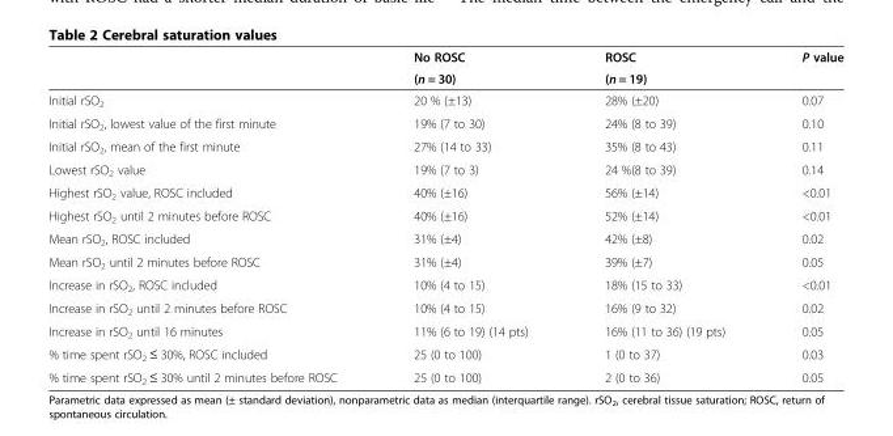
<table><thead><tr><td rowspan="2"></td><td rowspan="2">No ROSC (n = 30)</td><td rowspan="2">ROSC (n = 19)</td><td rowspan="2">P value</td></tr><tr></tr></thead><tbody><tr><td>Initial rSO<sub>2</sub></td><td>20 % (±13)</td><td>28% (±20)</td><td>0.07</td></tr><tr><td>Initial rSO<sub>2</sub>, lowest value of the first minute</td><td>19% (7 to 30)</td><td>24% (8 to 39)</td><td>0.10</td></tr><tr><td>Initial rSO<sub>2</sub>, mean of the first minute</td><td>27% (14 to 33)</td><td>35% (8 to 43)</td><td>0.11</td></tr><tr><td>Lowest rSO<sub>2</sub> value</td><td>19% (7 to 3)</td><td>24 %(8 to 39)</td><td>0.14</td></tr><tr><td>Highest rSO<sub>2</sub> value, ROSC included</td><td>40% (±16)</td><td>56% (±14)</td><td>&lt;0.01</td></tr><tr><td>Highest rSO<sub>2</sub> until 2 minutes before ROSC</td><td>40% (±16)</td><td>52% (±14)</td><td>&lt;0.01</td></tr><tr><td>Mean rSO<sub>2</sub>, ROSC included</td><td>31% (±4)</td><td>42% (±8)</td><td>0.02</td></tr><tr><td>Mean rSO<sub>2</sub> until 2 minutes before ROSC</td><td>31% (±4)</td><td>39% (±7)</td><td>0.05</td></tr><tr><td>Increase in rSO<sub>2</sub>, ROSC included</td><td>10% (4 to 15)</td><td>18% (15 to 33)</td><td>&lt;0.01</td></tr><tr><td>Increase in rSO<sub>2</sub> until 2 minutes before ROSC</td><td>10% (4 to 15)</td><td>16% (9 to 32)</td><td>0.02</td></tr><tr><td>Increase in rSO<sub>2</sub> until 16 minutes</td><td>11% (6 to 19) (14 pts)</td><td>16% (11 to 36) (19 pts)</td><td>0.05</td></tr><tr><td>% time spent rSO<sub>2</sub> ≤ 30%, ROSC included</td><td>25 (0 to 100)</td><td>1 (0 to 37)</td><td>0.03</td></tr><tr><td>% time spent rSO<sub>2</sub> ≤ 30% until 2 minutes before ROSC</td><td>25 (0 to 100)</td><td>2 (0 to 36)</td><td>0.05</td></tr></tbody></table>